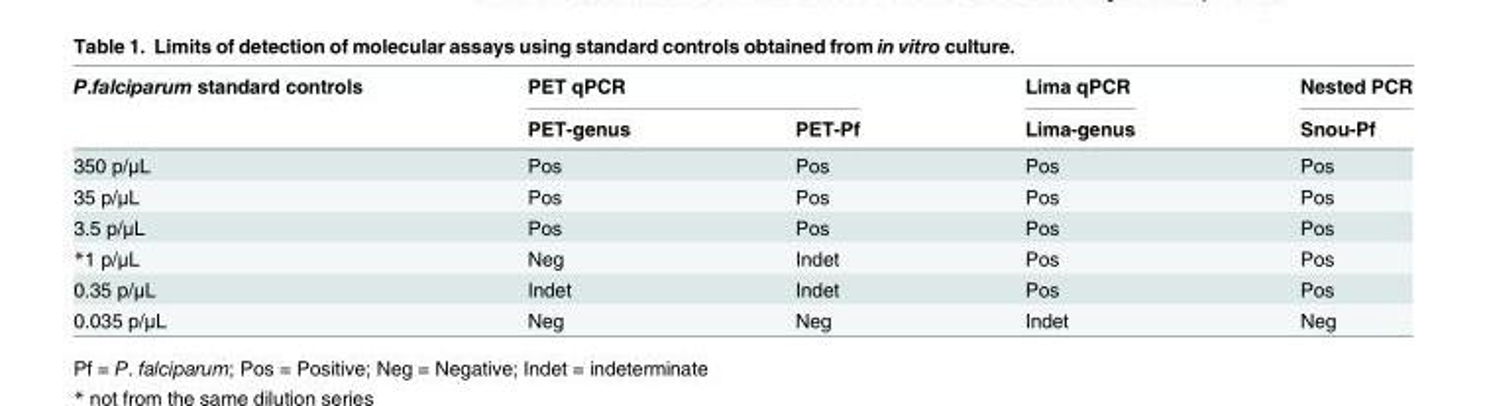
<table><thead><tr><td rowspan="2">P.falciparum standard controls</td><td colspan="2">PET qPCR</td><td rowspan="2">Lima qPCR Lima-genus</td><td rowspan="2">Nested PCR Snou-Pf</td></tr><tr><td>PET-genus</td><td>PET-Pf</td></tr></thead><tbody><tr><td>350 p/μL</td><td>Pos</td><td>Pos</td><td>Pos</td><td>Pos</td></tr><tr><td>35 p/μL</td><td>Pos</td><td>Pos</td><td>Pos</td><td>Pos</td></tr><tr><td>3.5 p/μL</td><td>Pos</td><td>Pos</td><td>Pos</td><td>Pos</td></tr><tr><td>*1 p/μL</td><td>Neg</td><td>Indet</td><td>Pos</td><td>Pos</td></tr><tr><td>0.35 p/μL</td><td>Indet</td><td>Indet</td><td>Pos</td><td>Pos</td></tr><tr><td>0.035 p/μL</td><td>Neg</td><td>Neg</td><td>Indet</td><td>Neg</td></tr></tbody></table>